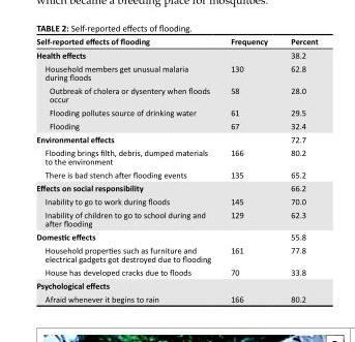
<table><thead><tr><td>Self-reported effects of flooding</td><td>Frequency</td><td>Percent</td></tr></thead><tbody><tr><td>Health effects</td><td></td><td>38.2</td></tr><tr><td>Household members get unusual malaria during floods</td><td>130</td><td>62.8</td></tr><tr><td>Outbreak of cholera or dysentery when floods occur</td><td>58</td><td>28.0</td></tr><tr><td>Flooding pollutes source of drinking water</td><td>61</td><td>29.5</td></tr><tr><td>Flooding</td><td>67</td><td>32.4</td></tr><tr><td>Environmental effects</td><td></td><td>72.7</td></tr><tr><td>Flooding brings filth, debris, dumped materials to the environment</td><td>166</td><td>80.2</td></tr><tr><td>There is bad stench after flooding events</td><td>135</td><td>65.2</td></tr><tr><td>Effects on social responsibility</td><td></td><td>66.2</td></tr><tr><td>Inability to go to work during floods</td><td>145</td><td>70.0</td></tr><tr><td>Inability of children to go to school during and after flooding</td><td>129</td><td>62.3</td></tr><tr><td>Domestic effects</td><td></td><td>55.8</td></tr><tr><td>Household properties such as furniture and electrical gadgets got destroyed due to flooding</td><td>161</td><td>77.8</td></tr><tr><td>House has developed cracks due to floods</td><td>70</td><td>33.8</td></tr><tr><td colspan="3">Psychological effects</td></tr><tr><td>Afraid whenever it begins to rain</td><td>166</td><td>80.2</td></tr></tbody></table>